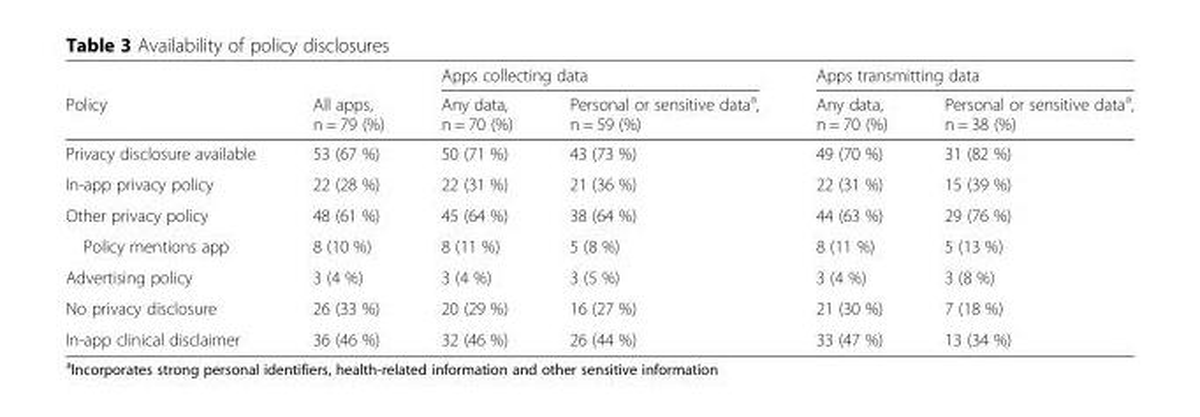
<table><thead><tr><td rowspan="2">Policy</td><td rowspan="2">All apps, n = 79 (%)</td><td colspan="2">Apps collecting data</td><td colspan="2">Apps transmitting data</td></tr><tr><td>Any data, n = 70 (%)</td><td>Personal or sensitive data<sup>a</sup>, n = 59 (%)</td><td>Any data, n = 70 (%)</td><td>Personal or sensitive data<sup>a</sup>, n = 38 (%)</td></tr></thead><tbody><tr><td>Privacy disclosure available</td><td>53 (67 %)</td><td>50 (71 %)</td><td>43 (73 %)</td><td>49 (70 %)</td><td>31 (82 %)</td></tr><tr><td>In-app privacy policy</td><td>22 (28 %)</td><td>22 (31 %)</td><td>21 (36 %)</td><td>22 (31 %)</td><td>15 (39 %)</td></tr><tr><td>Other privacy policy</td><td>48 (61 %)</td><td>45 (64 %)</td><td>38 (64 %)</td><td>44 (63 %)</td><td>29 (76 %)</td></tr><tr><td>Policy mentions app</td><td>8 (10 %)</td><td>8 (11 %)</td><td>5 (8 %)</td><td>8 (11 %)</td><td>5 (13 %)</td></tr><tr><td>Advertising policy</td><td>3 (4 %)</td><td>3 (4 %)</td><td>3 (5 %)</td><td>3 (4 %)</td><td>3 (8 %)</td></tr><tr><td>No privacy disclosure</td><td>26 (33 %)</td><td>20 (29 %)</td><td>16 (27 %)</td><td>21 (30 %)</td><td>7 (18 %)</td></tr><tr><td>In-app clinical disclaimer</td><td>36 (46 %)</td><td>32 (46 %)</td><td>26 (44 %)</td><td>33 (47 %)</td><td>13 (34 %)</td></tr></tbody></table>